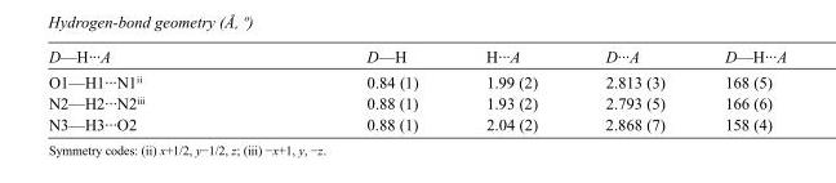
<table><tbody><tr><td>D—H···A</td><td>D—H</td><td>H···A</td><td>D···A</td><td>D—H···A</td></tr><tr><td>O1—H1···N1<sup>ii</sup></td><td>0.84 (1)</td><td>1.99 (2)</td><td>2.813 (3)</td><td>168 (5)</td></tr><tr><td>N2—H2···N2<sup>iii</sup></td><td>0.88 (1)</td><td>1.93 (2)</td><td>2.793 (5)</td><td>166 (6)</td></tr><tr><td>N3—H3···O2</td><td>0.88 (1)</td><td>2.04 (2)</td><td>2.868 (7)</td><td>158 (4)</td></tr></tbody></table>